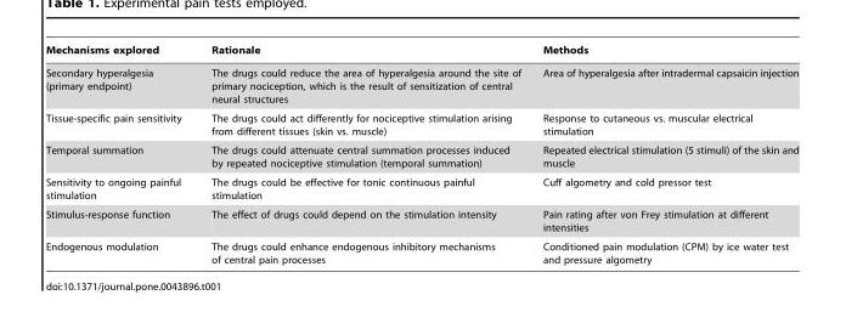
<table><thead><tr><td>Mechanisms explored</td><td>Rationale</td><td>Methods</td></tr></thead><tbody><tr><td>Secondary hyperalgesia (primary endpoint)</td><td>The drugs could reduce the area of hyperalgesia around the site of primary nociception, which is the result of sensitization of central neural structures</td><td>Area of hyperalgesia after intradermal capsaicin injection</td></tr><tr><td>Tissue-specific pain sensitivity</td><td>The drugs could act differently for nociceptive stimulation arising from different tissues (skin vs. muscle)</td><td>Response to cutaneous vs. muscular electrical stimulation</td></tr><tr><td>Temporal summation</td><td>The drugs could attenuate central summation processes induced by repeated nociceptive stimulation (temporal summation)</td><td>Repeated electrical stimulation (5 stimuli) of the skin and muscle</td></tr><tr><td>Sensitivity to ongoing painful stimulation</td><td>The drugs could be effective for tonic continuous painful stimulation</td><td>Cuff algometry and cold pressor test</td></tr><tr><td>Stimulus-response function</td><td>The effect of drugs could depend on the stimulation intensity</td><td>Pain rating after von Frey stimulation at different intensities</td></tr><tr><td>Endogenous modulation</td><td>The drugs could enhance endogenous inhibitory mechanisms of central pain processes</td><td>Conditioned pain modulation (CPM) by ice water test and pressure algometry</td></tr></tbody></table>